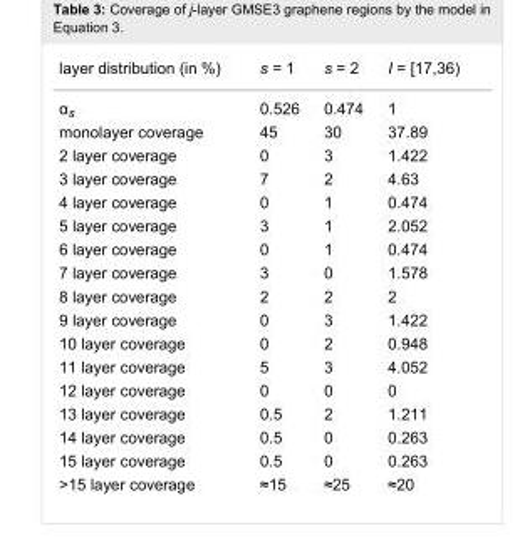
<table><tbody><tr><td>layer distribution (in %)</td><td>s = 1</td><td>s = 2</td><td>I = [17,36)</td></tr><tr><td>α<sub>s</sub></td><td>0.526</td><td>0.474</td><td>1</td></tr><tr><td>monolayer coverage</td><td>45</td><td>30</td><td>37.89</td></tr><tr><td>2 layer coverage</td><td>0</td><td>3</td><td>1.422</td></tr><tr><td>3 layer coverage</td><td>7</td><td>2</td><td>4.63</td></tr><tr><td>4 layer coverage</td><td>0</td><td>1</td><td>0.474</td></tr><tr><td>5 layer coverage</td><td>3</td><td>1</td><td>2.052</td></tr><tr><td>6 layer coverage</td><td>0</td><td>1</td><td>0.474</td></tr><tr><td>7 layer coverage</td><td>3</td><td>0</td><td>1.578</td></tr><tr><td>8 layer coverage</td><td>2</td><td>2</td><td>2</td></tr><tr><td>9 layer coverage</td><td>0</td><td>3</td><td>1.422</td></tr><tr><td>10 layer coverage</td><td>0</td><td>2</td><td>0.948</td></tr><tr><td>11 layer coverage</td><td>5</td><td>3</td><td>4.052</td></tr><tr><td>12 layer coverage</td><td>0</td><td>0</td><td>0</td></tr><tr><td>13 layer coverage</td><td>0.5</td><td>2</td><td>1.211</td></tr><tr><td>14 layer coverage</td><td>0.5</td><td>0</td><td>0.263</td></tr><tr><td>15 layer coverage</td><td>0.5</td><td>0</td><td>0.263</td></tr><tr><td>&gt;15 layer coverage</td><td>≈15</td><td>≈25</td><td>≈20</td></tr></tbody></table>